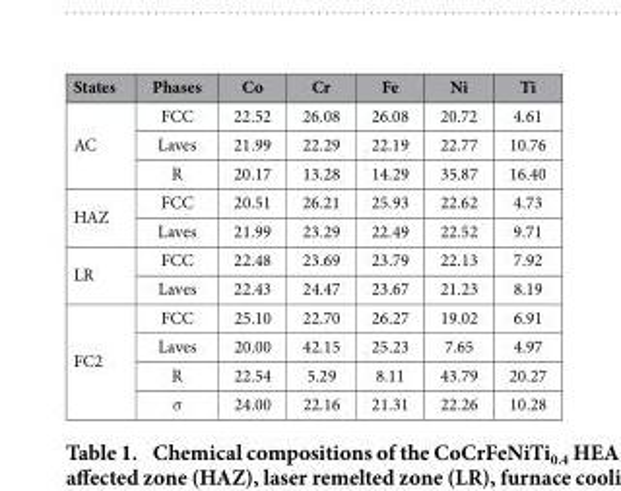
<table><thead><tr><td>States</td><td>Phases</td><td>Co</td><td>Cr</td><td>Fe</td><td>Ni</td><td>Ti</td></tr></thead><tbody><tr><td rowspan="3">AC</td><td>FCC</td><td>22.52</td><td>26.08</td><td>26.08</td><td>20.72</td><td>4.61</td></tr><tr><td>Laves</td><td>21.99</td><td>22.29</td><td>22.19</td><td>22.77</td><td>10.76</td></tr><tr><td>R</td><td>20.17</td><td>13.28</td><td>14.29</td><td>35.87</td><td>16.40</td></tr><tr><td rowspan="2">HAZ</td><td>FCC</td><td>20.51</td><td>26.21</td><td>25.93</td><td>22.62</td><td>4.73</td></tr><tr><td>Laves</td><td>21.99</td><td>23.29</td><td>22.49</td><td>22.52</td><td>9.71</td></tr><tr><td rowspan="2">LR</td><td>FCC</td><td>22.48</td><td>23.69</td><td>23.79</td><td>22.13</td><td>7.92</td></tr><tr><td>Laves</td><td>22.43</td><td>24.47</td><td>23.67</td><td>21.23</td><td>8.19</td></tr><tr><td rowspan="4">FC2</td><td>FCC</td><td>25.10</td><td>22.70</td><td>26.27</td><td>19.02</td><td>6.91</td></tr><tr><td>Laves</td><td>20.00</td><td>42.15</td><td>25.23</td><td>7.65</td><td>4.97</td></tr><tr><td>R</td><td>22.54</td><td>5.29</td><td>8.11</td><td>43.79</td><td>20.27</td></tr><tr><td>σ</td><td>24.00</td><td>22.16</td><td>21.31</td><td>22.26</td><td>10.28</td></tr></tbody></table>